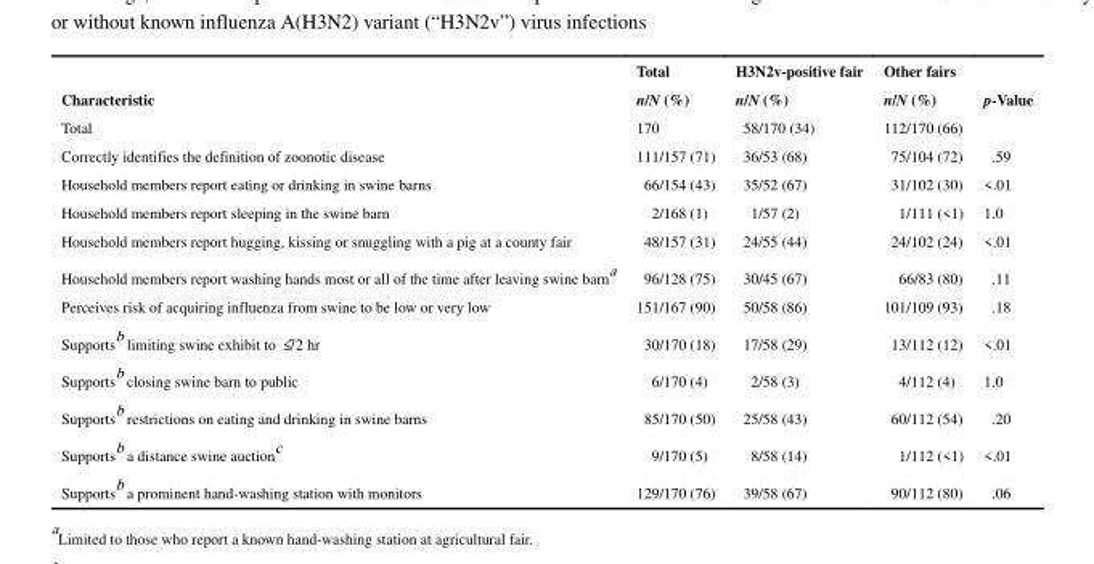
<table><thead><tr><td rowspan="2">Characteristic</td><td rowspan="2">Total n/N (%)</td><td rowspan="2">H3N2v-positive fair n/N (%)</td><td rowspan="2">Other fairs n/N (%)</td><td rowspan="2">p-Value</td></tr><tr></tr></thead><tbody><tr><td>Total</td><td>170</td><td>58/170 (34)</td><td>112/170 (66)</td><td></td></tr><tr><td>Correctly identifies the definition of zoonotic disease</td><td>111/157 (71)</td><td>36/53 (68)</td><td>75/104 (72)</td><td>.59</td></tr><tr><td>Household members report eating or drinking in swine barns</td><td>66/154 (43)</td><td>35/52 (67)</td><td>31/102 (30)</td><td>&lt;.01</td></tr><tr><td>Household members report sleeping in the swine barn</td><td>2/168 (1)</td><td>1/57 (2)</td><td>1/111 (&lt;1)</td><td>1.0</td></tr><tr><td>Household members report hugging, kissing or snuggling with a pig at a county fair</td><td>48/157 (31)</td><td>24/55 (44)</td><td>24/102 (24)</td><td>&lt;.01</td></tr><tr><td>Household members report washing hands most or all of the time after leaving swine barn<sup>a</sup></td><td>96/128 (75)</td><td>30/45 (67)</td><td>66/83 (80)</td><td>.11</td></tr><tr><td>Perceives risk of acquiring influenza from swine to be low or very low</td><td>151/167 (90)</td><td>50/58 (86)</td><td>101/109 (93)</td><td>.18</td></tr><tr><td>Supports<sup>b</sup> limiting swine exhibit to ≤72 hr</td><td>30/170 (18)</td><td>17/58 (29)</td><td>13/112 (12)</td><td>&lt;.01</td></tr><tr><td>Supports<sup>b</sup> closing swine barn to public</td><td>6/170 (4)</td><td>2/58 (3)</td><td>4/112 (4)</td><td>1.0</td></tr><tr><td>Supports<sup>b</sup> restrictions on eating and drinking in swine barns</td><td>85/170 (50)</td><td>25/58 (43)</td><td>60/112 (54)</td><td>.20</td></tr><tr><td>Supports<sup>b</sup> a distance swine auction<sup>c</sup></td><td>9/170 (5)</td><td>8/58 (14)</td><td>1/112 (&lt;1)</td><td>&lt;.01</td></tr><tr><td>Supports<sup>b</sup> a prominent hand-washing station with monitors</td><td>129/170 (76)</td><td>39/58 (67)</td><td>90/112 (80)</td><td>.06</td></tr></tbody></table>